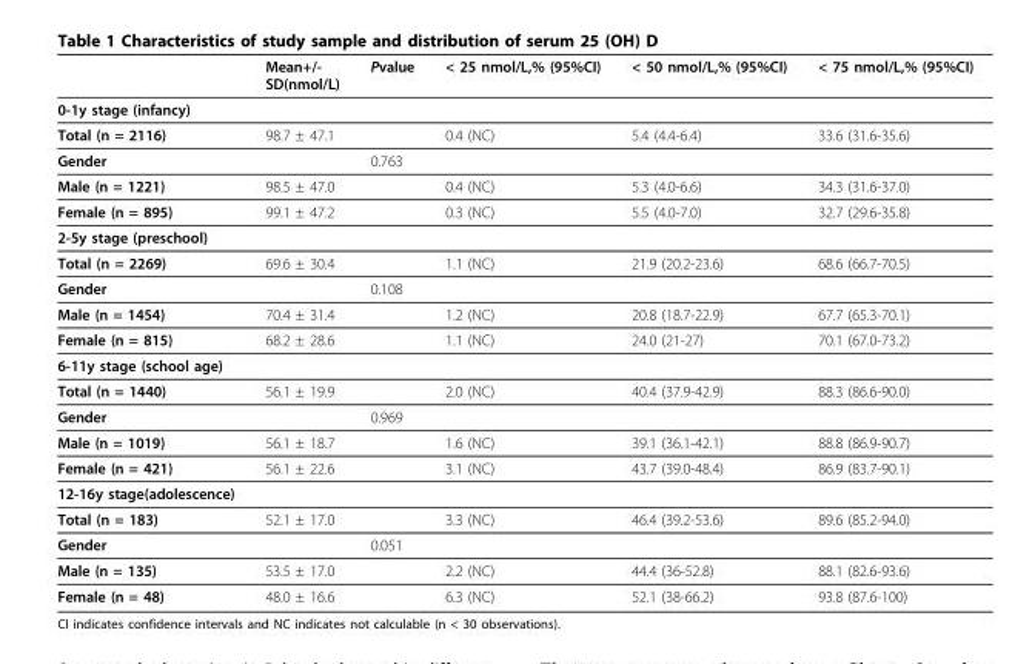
<table><thead><tr><td></td><td>Mean+/- SD(nmol/L)</td><td>Pvalue</td><td>&lt; 25 nmol/L,% (95%CI)</td><td>&lt; 50 nmol/L,% (95%CI)</td><td>&lt; 75 nmol/L,% (95%CI)</td></tr></thead><tbody><tr><td colspan="6">0-1y stage (infancy)</td></tr><tr><td>Total (n = 2116)</td><td>98.7 ± 47.1</td><td></td><td>0.4 (NC)</td><td>5.4 (4.4-6.4)</td><td>33.6 (31.6-35.6)</td></tr><tr><td>Gender</td><td></td><td>0.763</td><td></td><td></td><td></td></tr><tr><td>Male (n = 1221)</td><td>98.5 ± 47.0</td><td></td><td>0.4 (NC)</td><td>5.3 (4.0-6.6)</td><td>34.3 (31.6-37.0)</td></tr><tr><td>Female (n = 895)</td><td>99.1 ± 47.2</td><td></td><td>0.3 (NC)</td><td>5.5 (4.0-7.0)</td><td>32.7 (29.6-35.8)</td></tr><tr><td colspan="6">2-5y stage (preschool)</td></tr><tr><td>Total (n = 2269)</td><td>69.6 ± 30.4</td><td></td><td>1.1 (NC)</td><td>21.9 (20.2-23.6)</td><td>68.6 (66.7-70.5)</td></tr><tr><td>Gender</td><td></td><td>0.108</td><td></td><td></td><td></td></tr><tr><td>Male (n = 1454)</td><td>70.4 ± 31.4</td><td></td><td>1.2 (NC)</td><td>20.8 (18.7-22.9)</td><td>67.7 (65.3-70.1)</td></tr><tr><td>Female (n = 815)</td><td>68.2 ± 28.6</td><td></td><td>1.1 (NC)</td><td>24.0 (21-27)</td><td>70.1 (67.0-73.2)</td></tr><tr><td colspan="6">6-11y stage (school age)</td></tr><tr><td>Total (n = 1440)</td><td>56.1 ± 19.9</td><td></td><td>2.0 (NC)</td><td>40.4 (37.9-42.9)</td><td>88.3 (86.6-90.0)</td></tr><tr><td>Gender</td><td></td><td>0.969</td><td></td><td></td><td></td></tr><tr><td>Male (n = 1019)</td><td>56.1 ± 18.7</td><td></td><td>1.6 (NC)</td><td>39.1 (36.1-42.1)</td><td>88.8 (86.9-90.7)</td></tr><tr><td>Female (n = 421)</td><td>56.1 ± 22.6</td><td></td><td>3.1 (NC)</td><td>43.7 (39.0-48.4)</td><td>86.9 (83.7-90.1)</td></tr><tr><td colspan="6">12-16y stage(adolescence)</td></tr><tr><td>Total (n = 183)</td><td>52.1 ± 17.0</td><td></td><td>3.3 (NC)</td><td>46.4 (39.2-53.6)</td><td>89.6 (85.2-94.0)</td></tr><tr><td>Gender</td><td></td><td>0.051</td><td></td><td></td><td></td></tr><tr><td>Male (n = 135)</td><td>53.5 ± 17.0</td><td></td><td>2.2 (NC)</td><td>44.4 (36-52.8)</td><td>88.1 (82.6-93.6)</td></tr><tr><td>Female (n = 48)</td><td>48.0 ± 16.6</td><td></td><td>6.3 (NC)</td><td>52.1 (38-66.2)</td><td>93.8 (87.6-100)</td></tr></tbody></table>